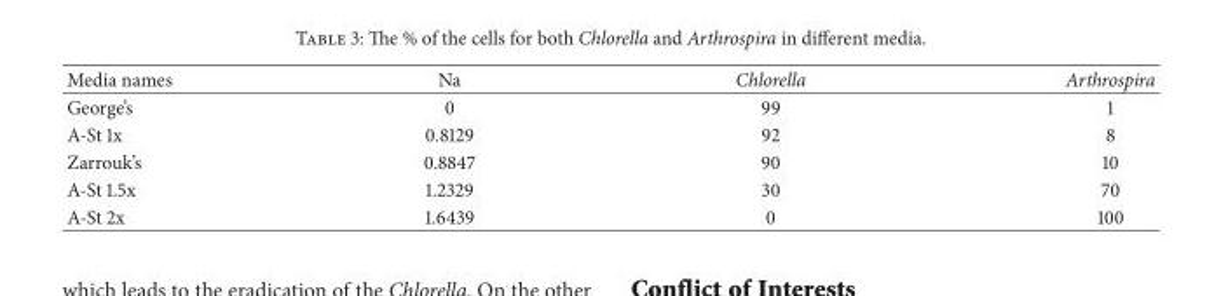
<table><thead><tr><td>Media names</td><td>Na</td><td>Chlorella</td><td>Arthrospira</td></tr></thead><tbody><tr><td>George’s</td><td>0</td><td>99</td><td>1</td></tr><tr><td>A-St 1x</td><td>0.8129</td><td>92</td><td>8</td></tr><tr><td>Zarrouk’s</td><td>0.8847</td><td>90</td><td>10</td></tr><tr><td>A-St 1.5x</td><td>1.2329</td><td>30</td><td>70</td></tr><tr><td>A-St 2x</td><td>1.6439</td><td>0</td><td>100</td></tr></tbody></table>